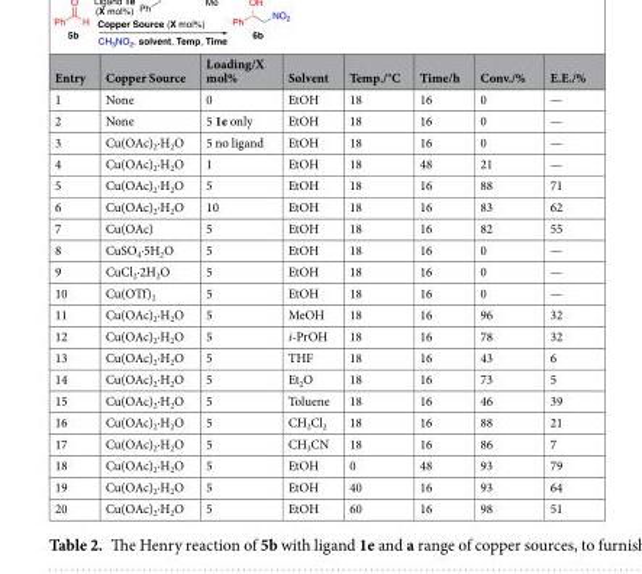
<table><thead><tr><td>Entry</td><td>Copper Source</td><td>Loading/X mol%</td><td>Solvent</td><td>Temp./°C</td><td>Time/h</td><td>Conv./%</td><td>E.E./%</td></tr></thead><tbody><tr><td>1</td><td>None</td><td>0</td><td>EtOH</td><td>18</td><td>16</td><td>0</td><td>—</td></tr><tr><td>2</td><td>None</td><td>5 1e only</td><td>EtOH</td><td>18</td><td>16</td><td>0</td><td>—</td></tr><tr><td>3</td><td>Cu(OAc)<sub>2</sub>·H<sub>2</sub>O</td><td>5 no ligand</td><td>EtOH</td><td>18</td><td>16</td><td>0</td><td>—</td></tr><tr><td>4</td><td>Cu(OAc)<sub>2</sub>·H<sub>2</sub>O</td><td>1</td><td>EtOH</td><td>18</td><td>48</td><td>21</td><td>—</td></tr><tr><td>5</td><td>Cu(OAc)<sub>2</sub>·H<sub>2</sub>O</td><td>5</td><td>EtOH</td><td>18</td><td>16</td><td>88</td><td>71</td></tr><tr><td>6</td><td>Cu(OAc)<sub>2</sub>·H<sub>2</sub>O</td><td>10</td><td>EtOH</td><td>18</td><td>16</td><td>83</td><td>62</td></tr><tr><td>7</td><td>Cu(OAc)</td><td>5</td><td>EtOH</td><td>18</td><td>16</td><td>82</td><td>55</td></tr><tr><td>8</td><td>CuSO<sub>4</sub>·5H<sub>2</sub>O</td><td>5</td><td>EtOH</td><td>18</td><td>16</td><td>0</td><td>—</td></tr><tr><td>9</td><td>CuCl<sub>2</sub>·2H<sub>2</sub>O</td><td>5</td><td>EtOH</td><td>18</td><td>16</td><td>0</td><td>—</td></tr><tr><td>10</td><td>Cu(OTf)<sub>2</sub></td><td>5</td><td>EtOH</td><td>18</td><td>16</td><td>0</td><td>—</td></tr><tr><td>11</td><td>Cu(OAc)<sub>2</sub>·H<sub>2</sub>O</td><td>5</td><td>MeOH</td><td>18</td><td>16</td><td>96</td><td>32</td></tr><tr><td>12</td><td>Cu(OAc)<sub>2</sub>·H<sub>2</sub>O</td><td>5</td><td>i-PrOH</td><td>18</td><td>16</td><td>78</td><td>32</td></tr><tr><td>13</td><td>Cu(OAc)<sub>2</sub>·H<sub>2</sub>O</td><td>5</td><td>THF</td><td>18</td><td>16</td><td>43</td><td>6</td></tr><tr><td>14</td><td>Cu(OAc)<sub>2</sub>·H<sub>2</sub>O</td><td>5</td><td>Et<sub>2</sub>O</td><td>18</td><td>16</td><td>73</td><td>5</td></tr><tr><td>15</td><td>Cu(OAc)<sub>2</sub>·H<sub>2</sub>O</td><td>5</td><td>Toluene</td><td>18</td><td>16</td><td>46</td><td>39</td></tr><tr><td>16</td><td>Cu(OAc)<sub>2</sub>·H<sub>2</sub>O</td><td>5</td><td>CH<sub>2</sub>Cl<sub>2</sub></td><td>18</td><td>16</td><td>88</td><td>21</td></tr><tr><td>17</td><td>Cu(OAc)<sub>2</sub>·H<sub>2</sub>O</td><td>5</td><td>CH<sub>3</sub>CN</td><td>18</td><td>16</td><td>86</td><td>7</td></tr><tr><td>18</td><td>Cu(OAc)<sub>2</sub>·H<sub>2</sub>O</td><td>5</td><td>EtOH</td><td>0</td><td>48</td><td>93</td><td>79</td></tr><tr><td>19</td><td>Cu(OAc)<sub>2</sub>·H<sub>2</sub>O</td><td>5</td><td>EtOH</td><td>40</td><td>16</td><td>93</td><td>64</td></tr><tr><td>20</td><td>Cu(OAc)<sub>2</sub>·H<sub>2</sub>O</td><td>5</td><td>EtOH</td><td>60</td><td>16</td><td>98</td><td>51</td></tr></tbody></table>